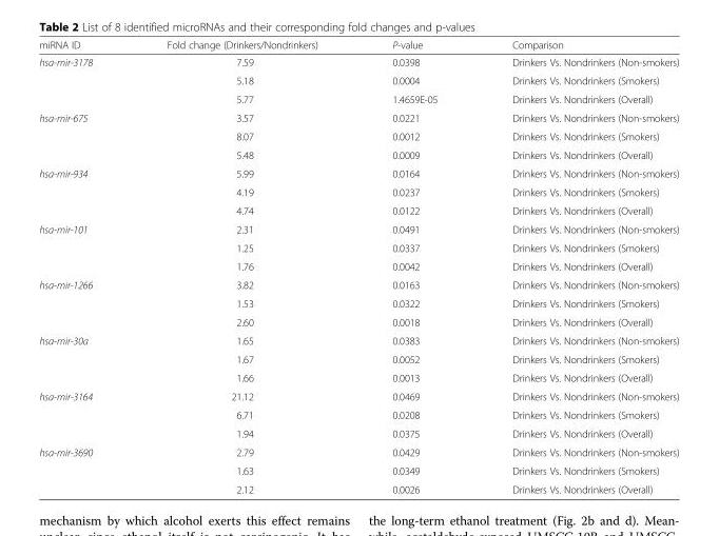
<table><thead><tr><td>miRNA ID</td><td>Fold change (Drinkers/Nondrinkers)</td><td>P-value</td><td>Comparison</td></tr></thead><tbody><tr><td rowspan="3">hsa-mir-3178</td><td>7.59</td><td>0.0398</td><td>Drinkers Vs. Nondrinkers (Non-smokers)</td></tr><tr><td>5.18</td><td>0.0004</td><td>Drinkers Vs. Nondrinkers (Smokers)</td></tr><tr><td>5.77</td><td>1.4659E-05</td><td>Drinkers Vs. Nondrinkers (Overall)</td></tr><tr><td rowspan="3">hsa-mir-675</td><td>3.57</td><td>0.0221</td><td>Drinkers Vs. Nondrinkers (Non-smokers)</td></tr><tr><td>8.07</td><td>0.0012</td><td>Drinkers Vs. Nondrinkers (Smokers)</td></tr><tr><td>5.48</td><td>0.0009</td><td>Drinkers Vs. Nondrinkers (Overall)</td></tr><tr><td rowspan="3">hsa-mir-934</td><td>5.99</td><td>0.0164</td><td>Drinkers Vs. Nondrinkers (Non-smokers)</td></tr><tr><td>4.19</td><td>0.0237</td><td>Drinkers Vs. Nondrinkers (Smokers)</td></tr><tr><td>4.74</td><td>0.0122</td><td>Drinkers Vs. Nondrinkers (Overall)</td></tr><tr><td rowspan="3">hsa-mir-101</td><td>2.31</td><td>0.0491</td><td>Drinkers Vs. Nondrinkers (Non-smokers)</td></tr><tr><td>1.25</td><td>0.0337</td><td>Drinkers Vs. Nondrinkers (Smokers)</td></tr><tr><td>1.76</td><td>0.0042</td><td>Drinkers Vs. Nondrinkers (Overall)</td></tr><tr><td rowspan="3">hsa-mir-1266</td><td>3.82</td><td>0.0163</td><td>Drinkers Vs. Nondrinkers (Non-smokers)</td></tr><tr><td>1.53</td><td>0.0322</td><td>Drinkers Vs. Nondrinkers (Smokers)</td></tr><tr><td>2.60</td><td>0.0018</td><td>Drinkers Vs. Nondrinkers (Overall)</td></tr><tr><td rowspan="3">hsa-mir-30a</td><td>1.65</td><td>0.0383</td><td>Drinkers Vs. Nondrinkers (Non-smokers)</td></tr><tr><td>1.67</td><td>0.0052</td><td>Drinkers Vs. Nondrinkers (Smokers)</td></tr><tr><td>1.66</td><td>0.0013</td><td>Drinkers Vs. Nondrinkers (Overall)</td></tr><tr><td rowspan="3">hsa-mir-3164</td><td>21.12</td><td>0.0469</td><td>Drinkers Vs. Nondrinkers (Non-smokers)</td></tr><tr><td>6.71</td><td>0.0208</td><td>Drinkers Vs. Nondrinkers (Smokers)</td></tr><tr><td>1.94</td><td>0.0375</td><td>Drinkers Vs. Nondrinkers (Overall)</td></tr><tr><td rowspan="3">hsa-mir-3690</td><td>2.79</td><td>0.0429</td><td>Drinkers Vs. Nondrinkers (Non-smokers)</td></tr><tr><td>1.63</td><td>0.0349</td><td>Drinkers Vs. Nondrinkers (Smokers)</td></tr><tr><td>2.12</td><td>0.0026</td><td>Drinkers Vs. Nondrinkers (Overall)</td></tr></tbody></table>